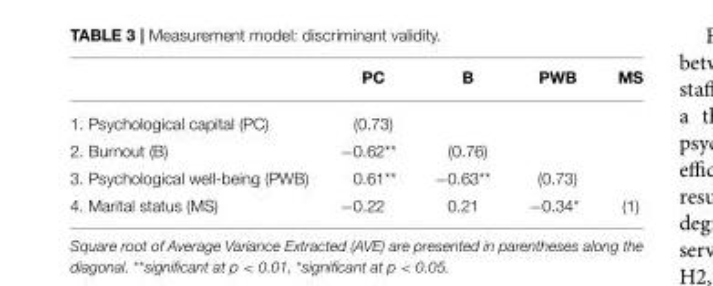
<table><thead><tr><td></td><td>PC</td><td>B</td><td>PWB</td><td>MS</td></tr></thead><tbody><tr><td>1. Psychological capital (PC)</td><td>(0.73)</td><td></td><td></td><td></td></tr><tr><td>2. Burnout (B)</td><td>−0.62**</td><td>(0.76)</td><td></td><td></td></tr><tr><td>3. Psychological well-being (PWB)</td><td>0.61**</td><td>−0.63**</td><td>(0.73)</td><td></td></tr><tr><td>4. Marital status (MS)</td><td>−0.22</td><td>0.21</td><td>−0.34*</td><td>(1)</td></tr></tbody></table>